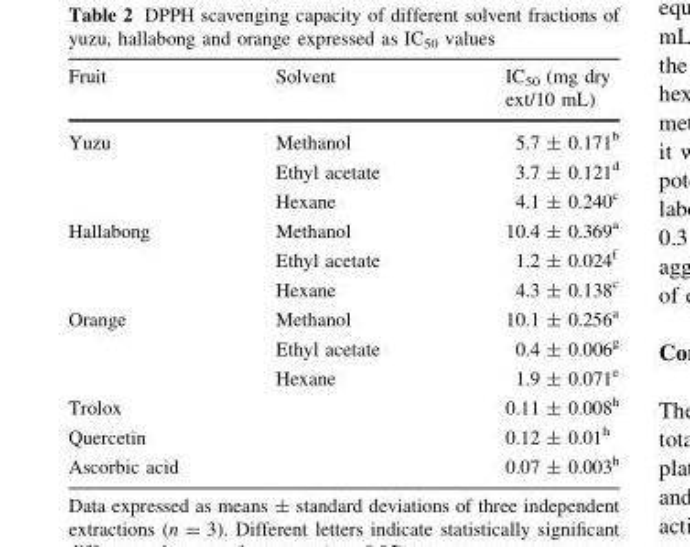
<table><thead><tr><td>Fruit</td><td>Solvent</td><td>IC<sub>50</sub> (mg dry ext/10 mL)</td></tr></thead><tbody><tr><td rowspan="3">Yuzu</td><td>Methanol</td><td>5.7 ± 0.171<sup>b</sup></td></tr><tr><td>Ethyl acetate</td><td>3.7 ± 0.121<sup>d</sup></td></tr><tr><td>Hexane</td><td>4.1 ± 0.240<sup>c</sup></td></tr><tr><td rowspan="3">Hallabong</td><td>Methanol</td><td>10.4 ± 0.369<sup>a</sup></td></tr><tr><td>Ethyl acetate</td><td>1.2 ± 0.024<sup>f</sup></td></tr><tr><td>Hexane</td><td>4.3 ± 0.138<sup>c</sup></td></tr><tr><td rowspan="3">Orange</td><td>Methanol</td><td>10.1 ± 0.256<sup>a</sup></td></tr><tr><td>Ethyl acetate</td><td>0.4 ± 0.006<sup>g</sup></td></tr><tr><td>Hexane</td><td>1.9 ± 0.071<sup>e</sup></td></tr><tr><td colspan="2">Trolox</td><td>0.11 ± 0.008<sup>h</sup></td></tr><tr><td colspan="2">Quercetin</td><td>0.12 ± 0.01<sup>h</sup></td></tr><tr><td colspan="2">Ascorbic acid</td><td>0.07 ± 0.003<sup>h</sup></td></tr></tbody></table>